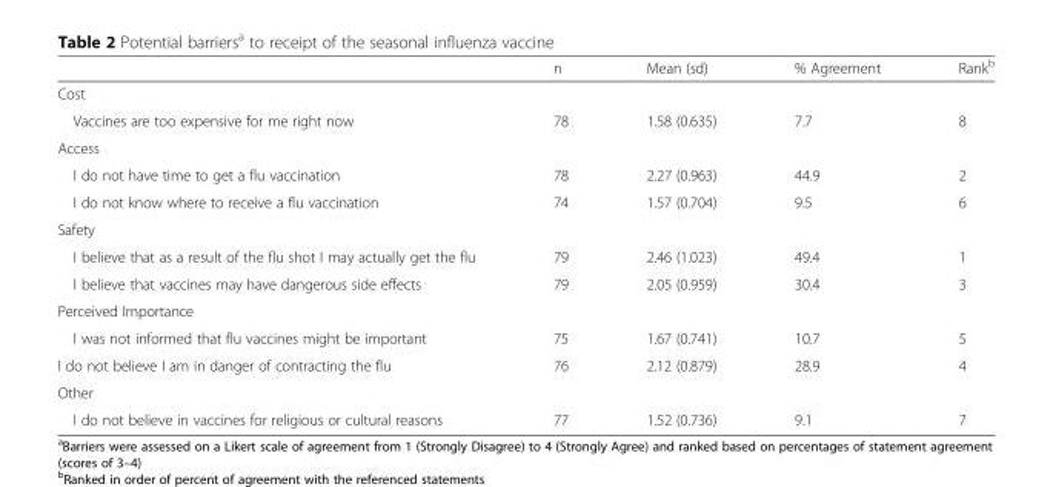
<table><thead><tr><td></td><td>n</td><td>Mean (sd)</td><td>% Agreement</td><td>Rank<sup>b</sup></td></tr></thead><tbody><tr><td colspan="5">Cost</td></tr><tr><td>Vaccines are too expensive for me right now</td><td>78</td><td>1.58 (0.635)</td><td>7.7</td><td>8</td></tr><tr><td colspan="5">Access</td></tr><tr><td>I do not have time to get a flu vaccination</td><td>78</td><td>2.27 (0.963)</td><td>44.9</td><td>2</td></tr><tr><td>I do not know where to receive a flu vaccination</td><td>74</td><td>1.57 (0.704)</td><td>9.5</td><td>6</td></tr><tr><td colspan="5">Safety</td></tr><tr><td>I believe that as a result of the flu shot I may actually get the flu</td><td>79</td><td>2.46 (1.023)</td><td>49.4</td><td>1</td></tr><tr><td>I believe that vaccines may have dangerous side effects</td><td>79</td><td>2.05 (0.959)</td><td>30.4</td><td>3</td></tr><tr><td colspan="5">Perceived Importance</td></tr><tr><td>I was not informed that flu vaccines might be important</td><td>75</td><td>1.67 (0.741)</td><td>10.7</td><td>5</td></tr><tr><td>I do not believe I am in danger of contracting the flu</td><td>76</td><td>2.12 (0.879)</td><td>28.9</td><td>4</td></tr><tr><td colspan="5">Other</td></tr><tr><td>I do not believe in vaccines for religious or cultural reasons</td><td>77</td><td>1.52 (0.736)</td><td>9.1</td><td>7</td></tr></tbody></table>